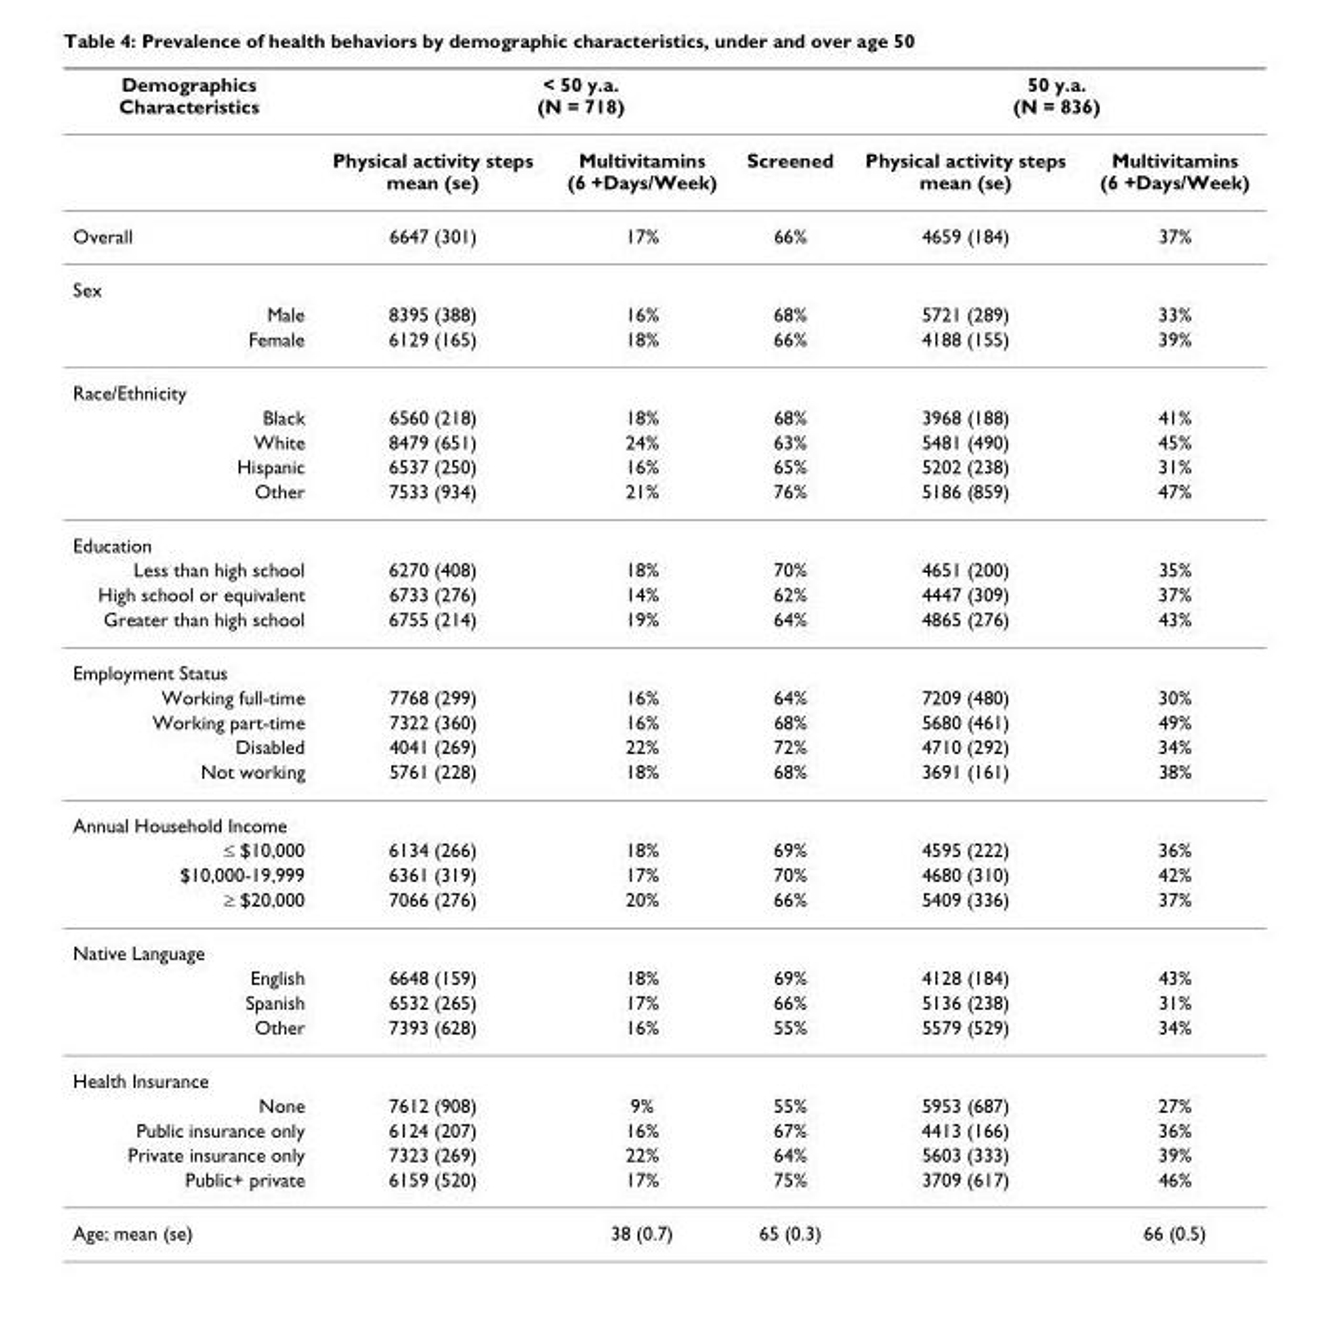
<table><thead><tr><td rowspan="2">Demographics Characteristics</td><td colspan="3">&lt; 50 y.a. (N = 718)</td><td colspan="2">50 y.a. (N = 836)</td></tr><tr><td>Physical activity steps mean (se)</td><td>Multivitamins (6 +Days/Week)</td><td>Screened</td><td>Physical activity steps mean (se)</td><td>Multivitamins (6 +Days/Week)</td></tr></thead><tbody><tr><td>Overall</td><td>6647 (301)</td><td>17%</td><td>66%</td><td>4659 (184)</td><td>37%</td></tr><tr><td colspan="6">Sex</td></tr><tr><td>Male</td><td>8395 (388)</td><td>16%</td><td>68%</td><td>5721 (289)</td><td>33%</td></tr><tr><td>Female</td><td>6129 (165)</td><td>18%</td><td>66%</td><td>4188 (155)</td><td>39%</td></tr><tr><td colspan="6">Race/Ethnicity</td></tr><tr><td>Black</td><td>6560 (218)</td><td>18%</td><td>68%</td><td>3968 (188)</td><td>41%</td></tr><tr><td>White</td><td>8479 (651)</td><td>24%</td><td>63%</td><td>5481 (490)</td><td>45%</td></tr><tr><td>Hispanic</td><td>6537 (250)</td><td>16%</td><td>65%</td><td>5202 (238)</td><td>31%</td></tr><tr><td>Other</td><td>7533 (934)</td><td>21%</td><td>76%</td><td>5186 (859)</td><td>47%</td></tr><tr><td colspan="6">Education</td></tr><tr><td>Less than high school</td><td>6270 (408)</td><td>18%</td><td>70%</td><td>4651 (200)</td><td>35%</td></tr><tr><td>High school or equivalent</td><td>6733 (276)</td><td>14%</td><td>62%</td><td>4447 (309)</td><td>37%</td></tr><tr><td>Greater than high school</td><td>6755 (214)</td><td>19%</td><td>64%</td><td>4865 (276)</td><td>43%</td></tr><tr><td colspan="6">Employment Status</td></tr><tr><td>Working full-time</td><td>7768 (299)</td><td>16%</td><td>64%</td><td>7209 (480)</td><td>30%</td></tr><tr><td>Working part-time</td><td>7322 (360)</td><td>16%</td><td>68%</td><td>5680 (461)</td><td>49%</td></tr><tr><td>Disabled</td><td>4041 (269)</td><td>22%</td><td>72%</td><td>4710 (292)</td><td>34%</td></tr><tr><td>Not working</td><td>5761 (228)</td><td>18%</td><td>68%</td><td>3691 (161)</td><td>38%</td></tr><tr><td colspan="6">Annual Household Income</td></tr><tr><td>≤ $10,000</td><td>6134 (266)</td><td>18%</td><td>69%</td><td>4595 (222)</td><td>36%</td></tr><tr><td>$10,000-19,999</td><td>6361 (319)</td><td>17%</td><td>70%</td><td>4680 (310)</td><td>42%</td></tr><tr><td>≥ $20,000</td><td>7066 (276)</td><td>20%</td><td>66%</td><td>5409 (336)</td><td>37%</td></tr><tr><td colspan="6">Native Language</td></tr><tr><td>English</td><td>6648 (159)</td><td>18%</td><td>69%</td><td>4128 (184)</td><td>43%</td></tr><tr><td>Spanish</td><td>6532 (265)</td><td>17%</td><td>66%</td><td>5136 (238)</td><td>31%</td></tr><tr><td>Other</td><td>7393 (628)</td><td>16%</td><td>55%</td><td>5579 (529)</td><td>34%</td></tr><tr><td colspan="6">Health Insurance</td></tr><tr><td>None</td><td>7612 (908)</td><td>9%</td><td>55%</td><td>5953 (687)</td><td>27%</td></tr><tr><td>Public insurance only</td><td>6124 (207)</td><td>16%</td><td>67%</td><td>4413 (166)</td><td>36%</td></tr><tr><td>Private insurance only</td><td>7323 (269)</td><td>22%</td><td>64%</td><td>5603 (333)</td><td>39%</td></tr><tr><td>Public+ private</td><td>6159 (520)</td><td>17%</td><td>75%</td><td>3709 (617)</td><td>46%</td></tr><tr><td>Age; mean (se)</td><td></td><td>38 (0.7)</td><td>65 (0.3)</td><td></td><td>66 (0.5)</td></tr></tbody></table>